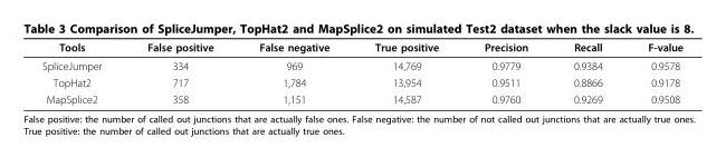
<table><thead><tr><td>Tools</td><td>False positive</td><td>False negative</td><td>True positive</td><td>Precision</td><td>Recall</td><td>F-value</td></tr></thead><tbody><tr><td>SpliceJumper</td><td>334</td><td>969</td><td>14,769</td><td>0.9779</td><td>0.9384</td><td>0.9578</td></tr><tr><td>TopHat2</td><td>717</td><td>1,784</td><td>13,954</td><td>0.9511</td><td>0.8866</td><td>0.9178</td></tr><tr><td>MapSplice2</td><td>358</td><td>1,151</td><td>14,587</td><td>0.9760</td><td>0.9269</td><td>0.9508</td></tr></tbody></table>